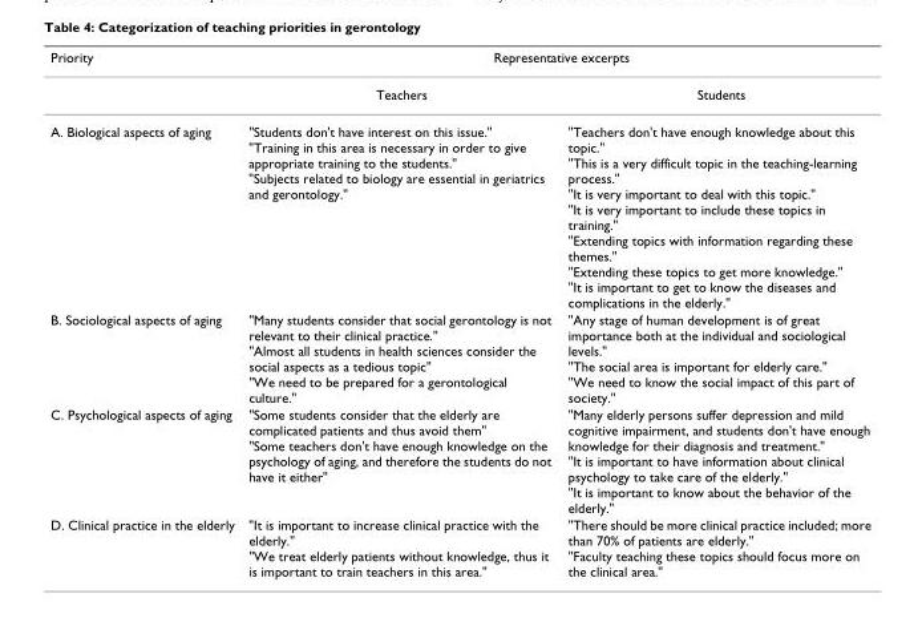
<table><thead><tr><td rowspan="2">Priority</td><td colspan="2">Representative excerpts</td></tr><tr><td>Teachers</td><td>Students</td></tr></thead><tbody><tr><td>A. Biological aspects of aging</td><td>&quot;Students don&#x27;t have interest on this issue.&quot; &quot;Training in this area is necessary in order to give appropriate training to the students.&quot; &quot;Subjects related to biology are essential in geriatrics and gerontology.&quot;</td><td>&quot;Teachers don&#x27;t have enough knowledge about this topic.&quot; &quot;This is a very difficult topic in the teaching-learning process.&quot; &quot;It is very important to deal with this topic.&quot; &quot;It is very important to include these topics in training.&quot; &quot;Extending topics with information regarding these themes.&quot; &quot;Extending these topics to get more knowledge.&quot; &quot;It is important to get to know the diseases and complications in the elderly.&quot;</td></tr><tr><td>B. Sociological aspects of aging</td><td>&quot;Many students consider that social gerontology is not relevant to their clinical practice.&quot; &quot;Almost all students in health sciences consider the social aspects as a tedious topic&quot; &quot;We need to be prepared for a gerontological culture.&quot;</td><td>&quot;Any stage of human development is of great importance both at the individual and sociological levels.&quot; &quot;The social area is important for elderly care.&quot; &quot;We need to know the social impact of this part of society.&quot;</td></tr><tr><td>C. Psychological aspects of aging</td><td>&quot;Some students consider that the elderly are complicated patients and thus avoid them&quot; &quot;Some teachers don&#x27;t have enough knowledge on the psychology of aging, and therefore the students do not have it either&quot;</td><td>&quot;Many elderly persons suffer depression and mild cognitive impairment, and students don&#x27;t have enough knowledge for their diagnosis and treatment.&quot; &quot;It is important to have information about clinical psychology to take care of the elderly.&quot; &quot;It is important to know about the behavior of the elderly.&quot;</td></tr><tr><td>D. Clinical practice in the elderly</td><td>&quot;It is important to increase clinical practice with the elderly.&quot; &quot;We treat elderly patients without knowledge, thus it is important to train teachers in this area.&quot;</td><td>&quot;There should be more clinical practice included; more than 70% of patients are elderly.&quot; &quot;Faculty teaching these topics should focus more on the clinical area.&quot;</td></tr></tbody></table>